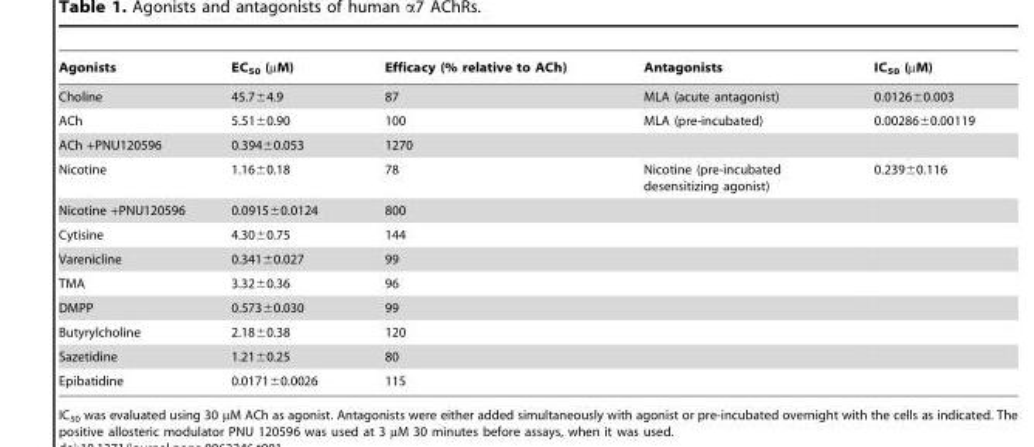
<table><thead><tr><td>Agonists</td><td>EC<sub>50</sub> (µM)</td><td>Efficacy (% relative to ACh)</td><td>Antagonists</td><td>IC<sub>50</sub> (µM)</td></tr></thead><tbody><tr><td>Choline</td><td>45.7±4.9</td><td>87</td><td>MLA (acute antagonist)</td><td>0.0126±0.003</td></tr><tr><td>ACh</td><td>5.51±0.90</td><td>100</td><td>MLA (pre-incubated)</td><td>0.00286±0.00119</td></tr><tr><td>ACh +PNU120596</td><td>0.394±0.053</td><td>1270</td><td></td><td></td></tr><tr><td>Nicotine</td><td>1.16±0.18</td><td>78</td><td>Nicotine (pre-incubated desensitizing agonist)</td><td>0.239±0.116</td></tr><tr><td>Nicotine +PNU120596</td><td>0.0915±0.0124</td><td>800</td><td></td><td></td></tr><tr><td>Cytisine</td><td>4.30±0.75</td><td>144</td><td></td><td></td></tr><tr><td>Varenicline</td><td>0.341±0.027</td><td>99</td><td></td><td></td></tr><tr><td>TMA</td><td>3.32±0.36</td><td>96</td><td></td><td></td></tr><tr><td>DMPP</td><td>0.573±0.030</td><td>99</td><td></td><td></td></tr><tr><td>Butyrylcholine</td><td>2.18±0.38</td><td>120</td><td></td><td></td></tr><tr><td>Sazetidine</td><td>1.21±0.25</td><td>80</td><td></td><td></td></tr><tr><td>Epibatidine</td><td>0.0171±0.0026</td><td>115</td><td></td><td></td></tr></tbody></table>